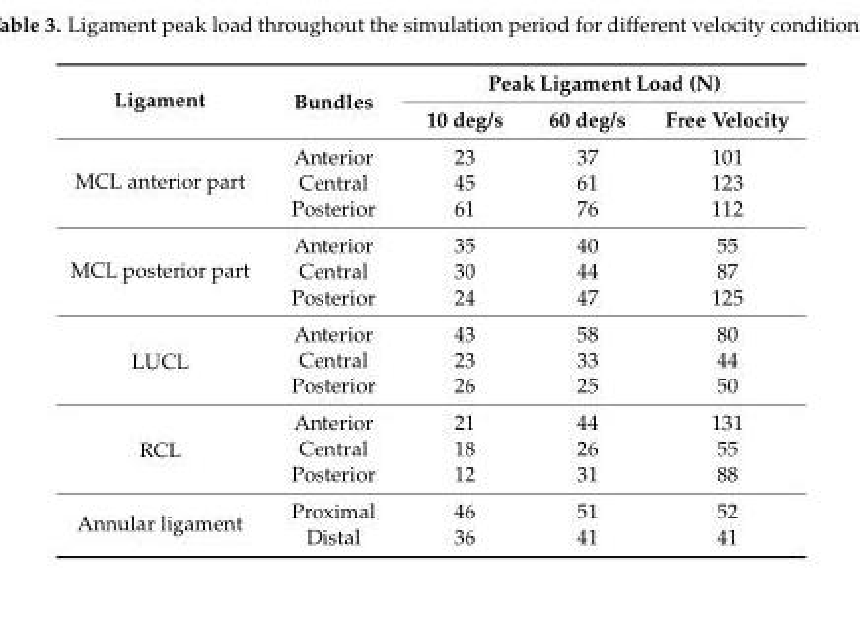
<table><thead><tr><td rowspan="2">Ligament</td><td rowspan="2">Bundles</td><td colspan="3">Peak Ligament Load (N)</td></tr><tr><td>10 deg/s</td><td>60 deg/s</td><td>Free Velocity</td></tr></thead><tbody><tr><td rowspan="3">MCL anterior part</td><td>Anterior</td><td>23</td><td>37</td><td>101</td></tr><tr><td>Central</td><td>45</td><td>61</td><td>123</td></tr><tr><td>Posterior</td><td>61</td><td>76</td><td>112</td></tr><tr><td rowspan="3">MCL posterior part</td><td>Anterior</td><td>35</td><td>40</td><td>55</td></tr><tr><td>Central</td><td>30</td><td>44</td><td>87</td></tr><tr><td>Posterior</td><td>24</td><td>47</td><td>125</td></tr><tr><td rowspan="3">LUCL</td><td>Anterior</td><td>43</td><td>58</td><td>80</td></tr><tr><td>Central</td><td>23</td><td>33</td><td>44</td></tr><tr><td>Posterior</td><td>26</td><td>25</td><td>50</td></tr><tr><td rowspan="3">RCL</td><td>Anterior</td><td>21</td><td>44</td><td>131</td></tr><tr><td>Central</td><td>18</td><td>26</td><td>55</td></tr><tr><td>Posterior</td><td>12</td><td>31</td><td>88</td></tr><tr><td rowspan="2">Annular ligament</td><td>Proximal</td><td>46</td><td>51</td><td>52</td></tr><tr><td>Distal</td><td>36</td><td>41</td><td>41</td></tr></tbody></table>